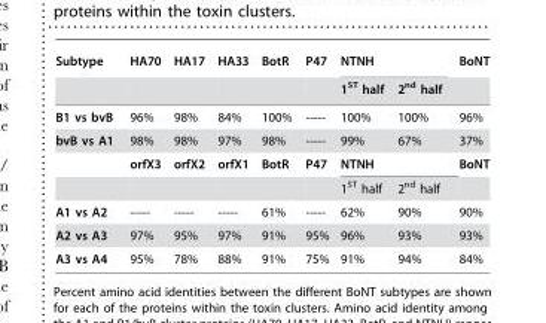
<table><thead><tr><td rowspan="2">Subtype</td><td rowspan="2">HA70</td><td rowspan="2">HA17</td><td rowspan="2">HA33</td><td rowspan="2">BotR</td><td rowspan="2">P47</td><td colspan="2">NTNH</td><td rowspan="2">BoNT</td></tr><tr><td>1<sup>ST</sup> half</td><td>2<sup>nd</sup> half</td></tr></thead><tbody><tr><td>B1 vs bvB</td><td>96%</td><td>98%</td><td>84%</td><td>100%</td><td>-----</td><td>100%</td><td>100%</td><td>96%</td></tr><tr><td rowspan="3">bvB vs A1</td><td>98%</td><td>98%</td><td>97%</td><td>98%</td><td>-----</td><td>99%</td><td>67%</td><td>37%</td></tr><tr><td>orfX3</td><td>orfX2</td><td>orfX1</td><td>BotR</td><td>P47</td><td colspan="2">NTNH</td><td>BoNT</td></tr><tr><td></td><td></td><td></td><td></td><td></td><td>1<sup>ST</sup> half</td><td>2<sup>nd</sup> half</td><td></td></tr><tr><td>A1 vs A2</td><td>-----</td><td>-----</td><td>-----</td><td>61%</td><td>-----</td><td>62%</td><td>90%</td><td>90%</td></tr><tr><td>A2 vs A3</td><td>97%</td><td>95%</td><td>97%</td><td>91%</td><td>95%</td><td>96%</td><td>93%</td><td>93%</td></tr><tr><td>A3 vs A4</td><td>95%</td><td>78%</td><td>88%</td><td>91%</td><td>75%</td><td>91%</td><td>94%</td><td>84%</td></tr></tbody></table>